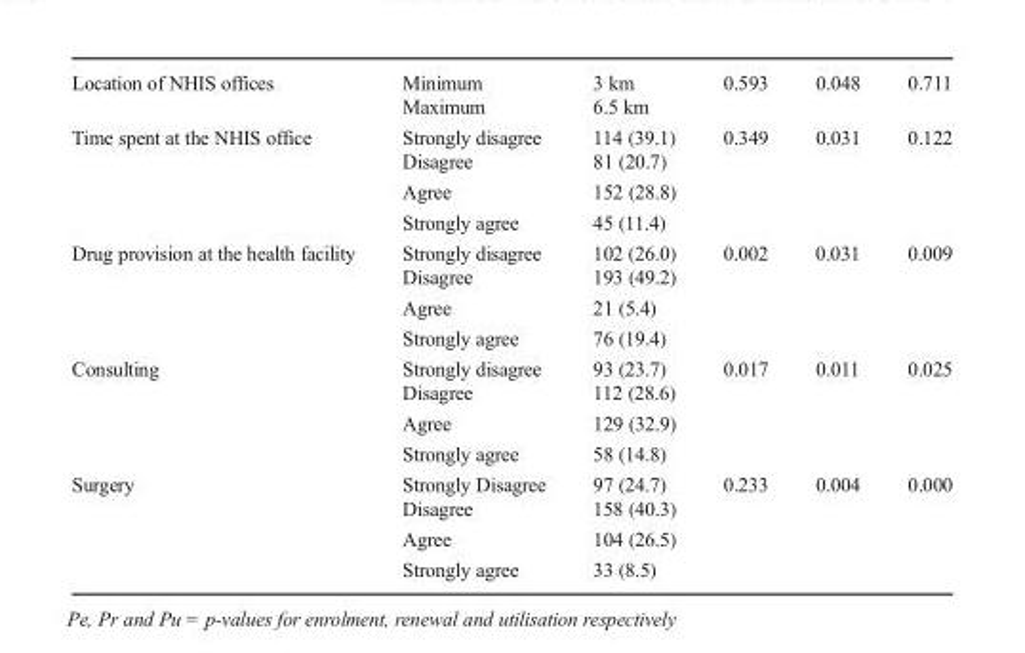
<table><tbody><tr><td rowspan="2">Location of NHIS offices</td><td>Minimum</td><td>3 km</td><td rowspan="2">0.593</td><td rowspan="2">0.048</td><td rowspan="2">0.711</td></tr><tr><td>Maximum</td><td>6.5 km</td></tr><tr><td rowspan="4">Time spent at the NHIS office</td><td>Strongly disagree</td><td>114 (39.1)</td><td rowspan="4">0.349</td><td rowspan="4">0.031</td><td rowspan="4">0.122</td></tr><tr><td>Disagree</td><td>81 (20.7)</td></tr><tr><td>Agree</td><td>152 (28.8)</td></tr><tr><td>Strongly agree</td><td>45 (11.4)</td></tr><tr><td rowspan="4">Drug provision at the health facility</td><td>Strongly disagree</td><td>102 (26.0)</td><td rowspan="4">0.002</td><td rowspan="4">0.031</td><td rowspan="4">0.009</td></tr><tr><td>Disagree</td><td>193 (49.2)</td></tr><tr><td>Agree</td><td>21 (5.4)</td></tr><tr><td>Strongly agree</td><td>76 (19.4)</td></tr><tr><td rowspan="4">Consulting</td><td>Strongly disagree</td><td>93 (23.7)</td><td rowspan="4">0.017</td><td rowspan="4">0.011</td><td rowspan="4">0.025</td></tr><tr><td>Disagree</td><td>112 (28.6)</td></tr><tr><td>Agree</td><td>129 (32.9)</td></tr><tr><td>Strongly agree</td><td>58 (14.8)</td></tr><tr><td rowspan="4">Surgery</td><td>Strongly Disagree</td><td>97 (24.7)</td><td rowspan="4">0.233</td><td rowspan="4">0.004</td><td rowspan="4">0.000</td></tr><tr><td>Disagree</td><td>158 (40.3)</td></tr><tr><td>Agree</td><td>104 (26.5)</td></tr><tr><td>Strongly agree</td><td>33 (8.5)</td></tr></tbody></table>